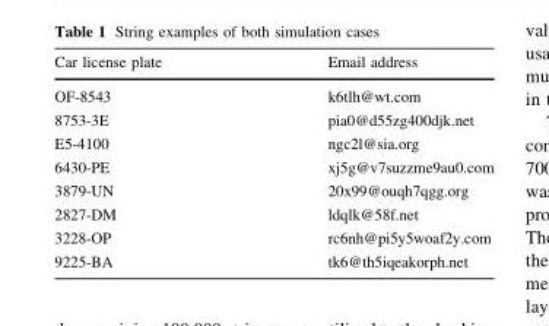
<table><thead><tr><td>Car license plate</td><td>Email address</td></tr></thead><tbody><tr><td>OF-8543</td><td>k6tlh@wt.com</td></tr><tr><td>8753-3E</td><td>pia0@d55zg400djk.net</td></tr><tr><td>E5-4100</td><td>ngc2l@sia.org</td></tr><tr><td>6430-PE</td><td>xj5g@v7suzzme9au0.com</td></tr><tr><td>3879-UN</td><td>20x99@ouqh7qgg.org</td></tr><tr><td>2827-DM</td><td>ldqlk@58f.net</td></tr><tr><td>3228-OP</td><td>rc6nh@pi5y5woaf2y.com</td></tr><tr><td>9225-BA</td><td>tk6@th5iqeakorph.net</td></tr></tbody></table>